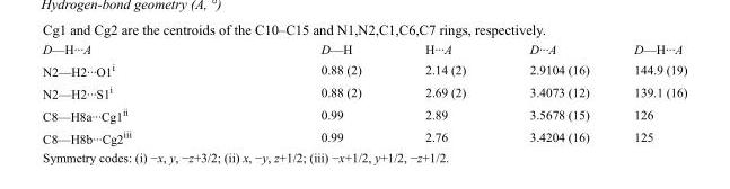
<table><tbody><tr><td>D—H···A</td><td>D—H</td><td>H···A</td><td>D···A</td><td>D—H···A</td></tr><tr><td>N2—H2···O1<sup>i</sup></td><td>0.88 (2)</td><td>2.14 (2)</td><td>2.9104 (16)</td><td>144.9 (19)</td></tr><tr><td>N2—H2···S1<sup>i</sup></td><td>0.88 (2)</td><td>2.69 (2)</td><td>3.4073 (12)</td><td>139.1 (16)</td></tr><tr><td>C8—H8a···Cg1<sup>ii</sup></td><td>0.99</td><td>2.89</td><td>3.5678 (15)</td><td>126</td></tr><tr><td>C8—H8b···Cg2<sup>iii</sup></td><td>0.99</td><td>2.76</td><td>3.4204 (16)</td><td>125</td></tr></tbody></table>